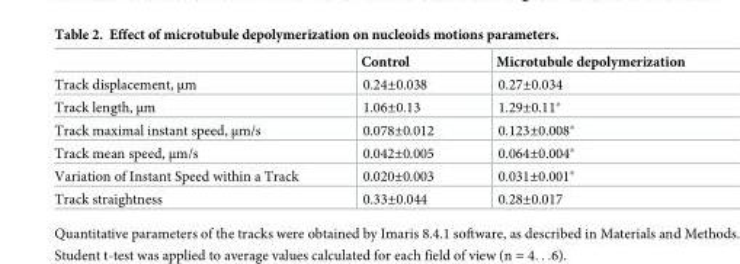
<table><thead><tr><td></td><td>Control</td><td>Microtubule depolymerization</td></tr></thead><tbody><tr><td>Track displacement, μm</td><td>0.24±0.038</td><td>0.27±0.034</td></tr><tr><td>Track length, μm</td><td>1.06±0.13</td><td>1.29±0.11*</td></tr><tr><td>Track maximal instant speed, μm/s</td><td>0.078±0.012</td><td>0.123±0.008*</td></tr><tr><td>Track mean speed, μm/s</td><td>0.042±0.005</td><td>0.064±0.004*</td></tr><tr><td>Variation of Instant Speed within a Track</td><td>0.020±0.003</td><td>0.031±0.001*</td></tr><tr><td>Track straightness</td><td>0.33±0.044</td><td>0.28±0.017</td></tr></tbody></table>